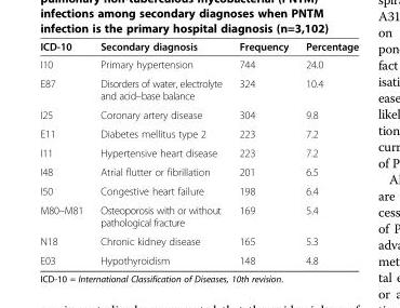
<table><thead><tr><td>ICD-10</td><td>Secondary diagnosis</td><td>Frequency</td><td>Percentage</td></tr></thead><tbody><tr><td>I10</td><td>Primary hypertension</td><td>744</td><td>24.0</td></tr><tr><td>E87</td><td>Disorders of water, electrolyte and acid–base balance</td><td>324</td><td>10.4</td></tr><tr><td>I25</td><td>Coronary artery disease</td><td>304</td><td>9.8</td></tr><tr><td>E11</td><td>Diabetes mellitus type 2</td><td>223</td><td>7.2</td></tr><tr><td>I11</td><td>Hypertensive heart disease</td><td>223</td><td>7.2</td></tr><tr><td>I48</td><td>Atrial flutter or fibrillation</td><td>201</td><td>6.5</td></tr><tr><td>I50</td><td>Congestive heart failure</td><td>198</td><td>6.4</td></tr><tr><td>M80–M81</td><td>Osteoporosis with or without pathological fracture</td><td>169</td><td>5.4</td></tr><tr><td>N18</td><td>Chronic kidney disease</td><td>165</td><td>5.3</td></tr><tr><td>E03</td><td>Hypothyroidism</td><td>148</td><td>4.8</td></tr></tbody></table>